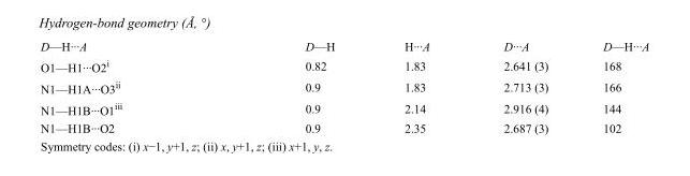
<table><tbody><tr><td>D—H···A</td><td>D—H</td><td>H···A</td><td>D···A</td><td>D—H···A</td></tr><tr><td>O1—H1···O2<sup>i</sup></td><td>0.82</td><td>1.83</td><td>2.641 (3)</td><td>168</td></tr><tr><td>N1—H1A···O3<sup>ii</sup></td><td>0.9</td><td>1.83</td><td>2.713 (3)</td><td>166</td></tr><tr><td>N1—H1B···O1<sup>iii</sup></td><td>0.9</td><td>2.14</td><td>2.916 (4)</td><td>144</td></tr><tr><td>N1—H1B···O2</td><td>0.9</td><td>2.35</td><td>2.687 (3)</td><td>102</td></tr></tbody></table>